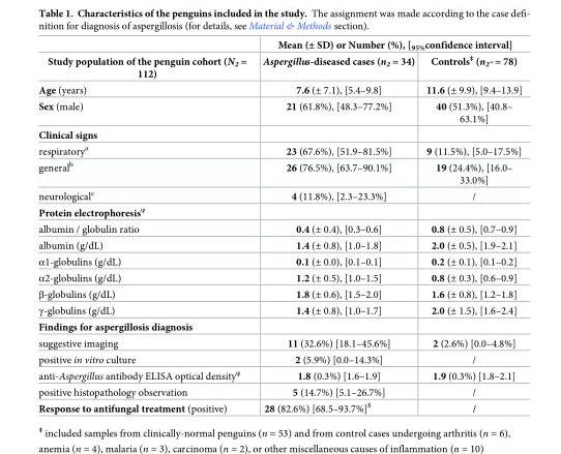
<table><thead><tr><td rowspan="2">Study population of the penguin cohort (N<sub>2</sub> = 112)</td><td colspan="2">Mean (± SD) or Number (%), [<sub>95%</sub>confidence interval]</td></tr><tr><td>Aspergillus-diseased cases (n<sub>2</sub> = 34)</td><td>Controls‡ (n2” = 78)</td></tr></thead><tbody><tr><td>Age (years)</td><td>7.6 (± 7.1), [5.4–9.8]</td><td>11.6 (± 9.9), [9.4–13.9]</td></tr><tr><td>Sex (male)</td><td>21 (61.8%), [48.3–77.2%]</td><td>40 (51.3%), [40.8– 63.1%]</td></tr><tr><td colspan="3">Clinical signs</td></tr><tr><td>respiratory<sup>a</sup></td><td>23 (67.6%), [51.9–81.5%]</td><td>9 (11.5%), [5.0–17.5%]</td></tr><tr><td>general<sup>b</sup></td><td>26 (76.5%), [63.7–90.1%]</td><td>19 (24.4%), [16.0– 33.0%]</td></tr><tr><td>neurological<sup>c</sup></td><td>4 (11.8%), [2.3–23.3%]</td><td>/</td></tr><tr><td colspan="3">Protein electrophoresis<sup>φ</sup></td></tr><tr><td>albumin / globulin ratio</td><td>0.4 (± 0.4), [0.3–0.6]</td><td>0.8 (± 0.5), [0.7–0.9]</td></tr><tr><td>albumin (g/dL)</td><td>1.4 (± 0.8), [1.0–1.8]</td><td>2.0 (± 0.5), [1.9–2.1]</td></tr><tr><td>α1-globulins (g/dL)</td><td>0.1 (± 0.0), [0.1–0.1]</td><td>0.2 (± 0.1), [0.1–0.2]</td></tr><tr><td>α2-globulins (g/dL)</td><td>1.2 (± 0.5), [1.0–1.5]</td><td>0.8 (± 0.3), [0.6–0.9]</td></tr><tr><td>β-globulins (g/dL)</td><td>1.8 (± 0.6), [1.5–2.0]</td><td>1.6 (± 0.8), [1.2–1.8]</td></tr><tr><td>γ-globulins (g/dL)</td><td>1.4 (± 0.8), [1.0–1.7]</td><td>2.0 (± 1.5), [1.6–2.4]</td></tr><tr><td colspan="3">Findings for aspergillosis diagnosis</td></tr><tr><td>suggestive imaging</td><td>11 (32.6%) [18.1–45.6%]</td><td>2 (2.6%) [0.0–4.8%]</td></tr><tr><td>positive in vitro culture</td><td>2 (5.9%) [0.0–14.3%]</td><td>/</td></tr><tr><td>anti-Aspergillus antibody ELISA optical density<sup>φ</sup></td><td>1.8 (0.3%) [1.6–1.9]</td><td>1.9 (0.3%) [1.8–2.1]</td></tr><tr><td>positive histopathology observation</td><td>5 (14.7%) [5.1–26.7%]</td><td>/</td></tr><tr><td>Response to antifungal treatment (positive)</td><td>28 (82.6%) [68.5–93.7%]<sup>$</sup></td><td>/</td></tr></tbody></table>